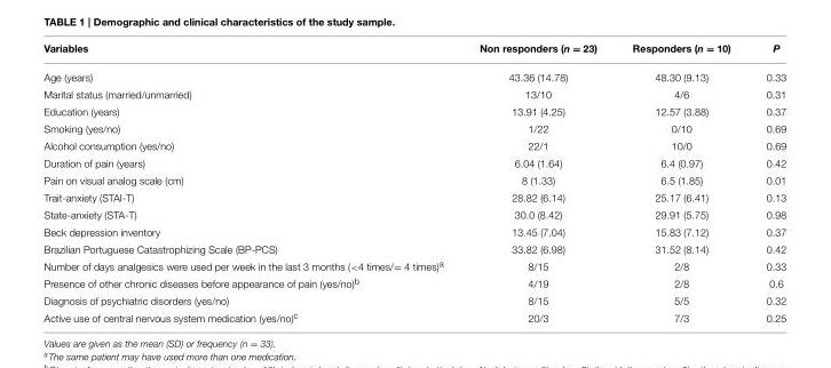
<table><thead><tr><td>Variables</td><td>Non responders (n = 23)</td><td>Responders (n = 10)</td><td>P</td></tr></thead><tbody><tr><td>Age (years)</td><td>43.36 (14.78)</td><td>48.30 (9.13)</td><td>0.33</td></tr><tr><td>Marital status (married/unmarried)</td><td>13/10</td><td>4/6</td><td>0.31</td></tr><tr><td>Education (years)</td><td>13.91 (4.25)</td><td>12.57 (3.88)</td><td>0.37</td></tr><tr><td>Smoking (yes/no)</td><td>1/22</td><td>0/10</td><td>0.69</td></tr><tr><td>Alcohol consumption (yes/no)</td><td>22/1</td><td>10/0</td><td>0.69</td></tr><tr><td>Duration of pain (years)</td><td>6.04 (1.64)</td><td>6.4 (0.97)</td><td>0.42</td></tr><tr><td>Pain on visual analog scale (cm)</td><td>8 (1.33)</td><td>6.5 (1.85)</td><td>0.01</td></tr><tr><td>Trait-anxiety (STAI-T)</td><td>28.82 (6.14)</td><td>25.17 (6.41)</td><td>0.13</td></tr><tr><td>State-anxiety (STA-T)</td><td>30.0 (8.42)</td><td>29.91 (5.75)</td><td>0.98</td></tr><tr><td>Beck depression inventory</td><td>13.45 (7.04)</td><td>15.83 (7.12)</td><td>0.37</td></tr><tr><td>Brazilian Portuguese Catastrophizing Scale (BP-PCS)</td><td>33.82 (6.98)</td><td>31.52 (8.14)</td><td>0.42</td></tr><tr><td>Number of days analgesics were used per week in the last 3 months (&lt;4 times/= 4 times)<sup>a</sup></td><td>8/15</td><td>2/8</td><td>0.33</td></tr><tr><td>Presence of other chronic diseases before appearance of pain (yes/no)<sup>b</sup></td><td>4/19</td><td>2/8</td><td>0.6</td></tr><tr><td>Diagnosis of psychiatric disorders (yes/no)</td><td>8/15</td><td>5/5</td><td>0.32</td></tr><tr><td>Active use of central nervous system medication (yes/no)<sup>c</sup></td><td>20/3</td><td>7/3</td><td>0.25</td></tr></tbody></table>